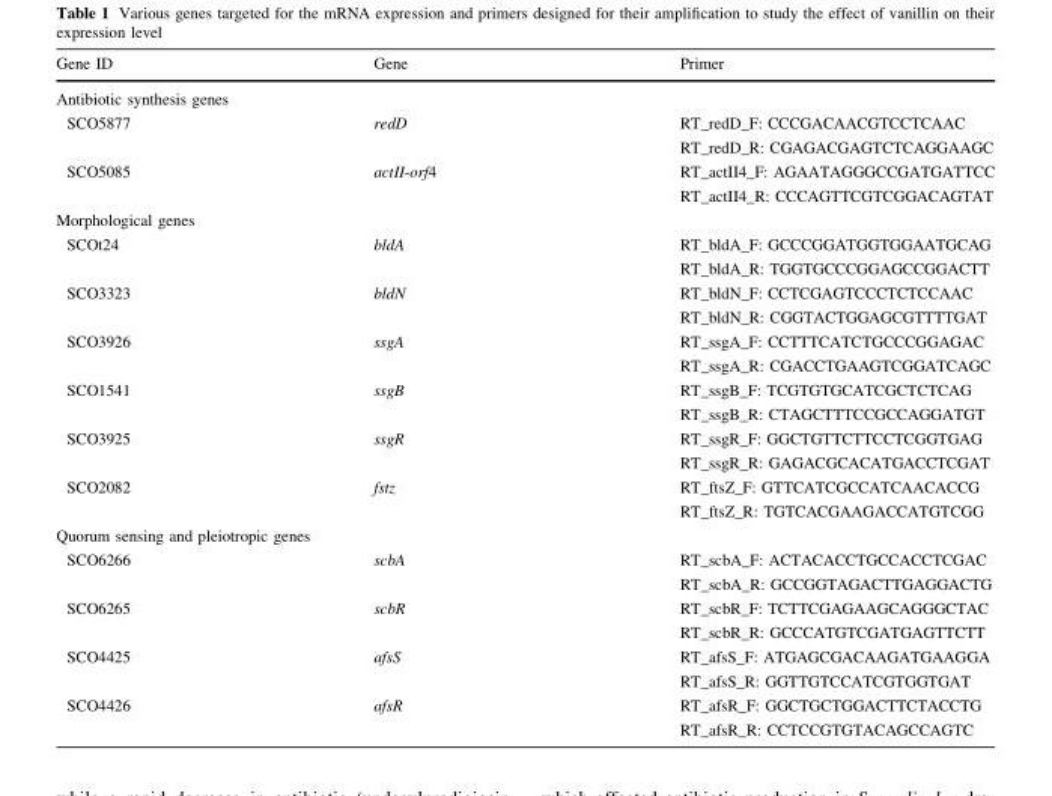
<table><thead><tr><td>Gene ID</td><td>Gene</td><td>Primer</td></tr></thead><tbody><tr><td colspan="3">Antibiotic synthesis genes</td></tr><tr><td>SCO5877</td><td>redD</td><td>RT_redD_F: CCCGACAACGTCCTCAAC RT_redD_R: CGAGACGAGTCTCAGGAAGC</td></tr><tr><td>SCO5085</td><td>actII-orf4</td><td>RT_actII4_F: AGAATAGGGCCGATGATTCC RT_actII4_R: CCCAGTTCGTCGGACAGTAT</td></tr><tr><td colspan="3">Morphological genes</td></tr><tr><td>SCOt24</td><td>bldA</td><td>RT_bldA_F: GCCCGGATGGTGGAATGCAG RT_bldA_R: TGGTGCCCGGAGCCGGACTT</td></tr><tr><td>SCO3323</td><td>bldN</td><td>RT_bldN_F: CCTCGAGTCCCTCTCCAAC RT_bldN_R: CGGTACTGGAGCGTTTTGAT</td></tr><tr><td>SCO3926</td><td>ssgA</td><td>RT_ssgA_F: CCTTTCATCTGCCCGGAGAC RT_ssgA_R: CGACCTGAAGTCGGATCAGC</td></tr><tr><td>SCO1541</td><td>ssgB</td><td>RT_ssgB_F: TCGTGTGCATCGCTCTCAG RT_ssgB_R: CTAGCTTTCCGCCAGGATGT</td></tr><tr><td>SCO3925</td><td>ssgR</td><td>RT_ssgR_F: GGCTGTTCTTCCTCGGTGAG RT_ssgR_R: GAGACGCACATGACCTCGAT</td></tr><tr><td>SCO2082</td><td>fstz</td><td>RT_ftsZ_F: GTTCATCGCCATCAACACCG RT_ftsZ_R: TGTCACGAAGACCATGTCGG</td></tr><tr><td colspan="3">Quorum sensing and pleiotropic genes</td></tr><tr><td>SCO6266</td><td>scbA</td><td>RT_scbA_F: ACTACACCTGCCACCTCGAC RT_scbA_R: GCCGGTAGACTTGAGGACTG</td></tr><tr><td>SCO6265</td><td>scbR</td><td>RT_scbR_F: TCTTCGAGAAGCAGGGCTAC RT_scbR_R: GCCCATGTCGATGAGTTCTT</td></tr><tr><td>SCO4425</td><td>afsS</td><td>RT_afsS_F: ATGAGCGACAAGATGAAGGA RT_afsS_R: GGTTGTCCATCGTGGTGAT</td></tr><tr><td>SCO4426</td><td>afsR</td><td>RT_afsR_F: GGCTGCTGGACTTCTACCTG RT_afsR_R: CCTCCGTGTACAGCCAGTC</td></tr></tbody></table>